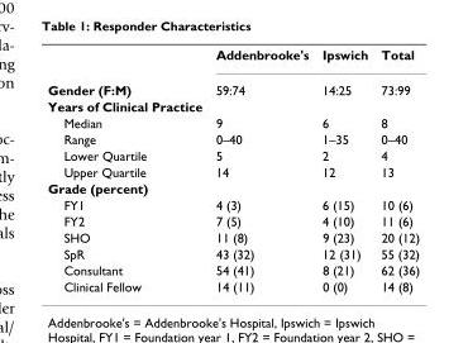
<table><thead><tr><td></td><td>Addenbrooke&#x27;s</td><td>Ipswich</td><td>Total</td></tr></thead><tbody><tr><td>Gender (F:M)</td><td>59:74</td><td>14:25</td><td>73:99</td></tr><tr><td colspan="4">Years of Clinical Practice</td></tr><tr><td>Median</td><td>9</td><td>6</td><td>8</td></tr><tr><td>Range</td><td>0–40</td><td>1–35</td><td>0–40</td></tr><tr><td>Lower Quartile</td><td>5</td><td>2</td><td>4</td></tr><tr><td>Upper Quartile</td><td>14</td><td>12</td><td>13</td></tr><tr><td colspan="4">Grade (percent)</td></tr><tr><td>FY1</td><td>4 (3)</td><td>6 (15)</td><td>10 (6)</td></tr><tr><td>FY2</td><td>7 (5)</td><td>4 (10)</td><td>11 (6)</td></tr><tr><td>SHO</td><td>11 (8)</td><td>9 (23)</td><td>20 (12)</td></tr><tr><td>SpR</td><td>43 (32)</td><td>12 (31)</td><td>55 (32)</td></tr><tr><td>Consultant</td><td>54 (41)</td><td>8 (21)</td><td>62 (36)</td></tr><tr><td>Clinical Fellow</td><td>14 (11)</td><td>0 (0)</td><td>14 (8)</td></tr></tbody></table>